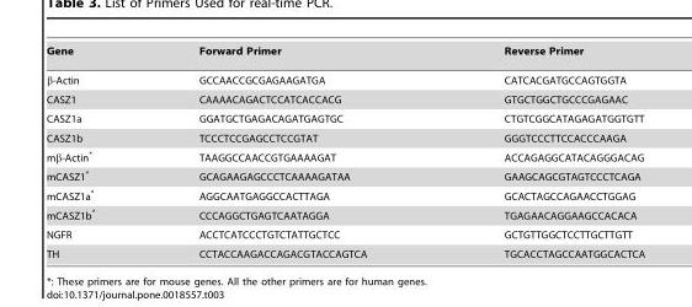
<table><tbody><tr><td>Gene</td><td>Forward Primer</td><td>Reverse Primer</td></tr><tr><td>β-Actin</td><td>GCCAACCGCGAGAAGATGA</td><td>CATCACGATGCCAGTGGTA</td></tr><tr><td>CASZ1</td><td>CAAAACAGACTCCATCACCACG</td><td>GTGCTGGCTGCCCGAGAAC</td></tr><tr><td>CASZ1a</td><td>GGATGCTGAGACAGATGAGTGC</td><td>CTGTCGGCATAGAGATGGTGTT</td></tr><tr><td>CASZ1b</td><td>TCCCTCCGAGCCTCCGTAT</td><td>GGGTCCCTTCCACCCAAGA</td></tr><tr><td>mβ-Actin*</td><td>TAAGGCCAACCGTGAAAAGAT</td><td>ACCAGAGGCATACAGGGACAG</td></tr><tr><td>mCASZ1*</td><td>GCAGAAGAGCCCTCAAAAGATAA</td><td>GAAGCAGCGTAGTCCCTCAGA</td></tr><tr><td>mCASZ1a*</td><td>AGGCAATGAGGCCACTTAGA</td><td>GCACTAGCCAGAACCTGGAG</td></tr><tr><td>mCASZ1b*</td><td>CCCAGGCTGAGTCAATAGGA</td><td>TGAGAACAGGAAGCCACACA</td></tr><tr><td>NGFR</td><td>ACCTCATCCCTGTCTATTGCTCC</td><td>GCTGTTGGCTCCTTGCTTGTT</td></tr><tr><td>TH</td><td>CCTACCAAGACCAGACGTACCAGTCA</td><td>TGCACCTAGCCAATGGCACTCA</td></tr></tbody></table>